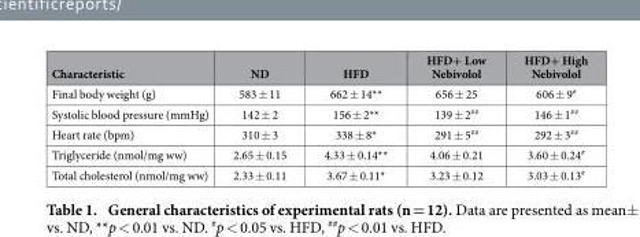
<table><thead><tr><td>Characteristic</td><td>ND</td><td>HFD</td><td>HFD+ Low Nebivolol</td><td>HFD+ High Nebivolol</td></tr></thead><tbody><tr><td>Final body weight (g)</td><td>583 ± 11</td><td>662 ± 14**</td><td>656 ± 25</td><td>606 ± 9#</td></tr><tr><td>Systolic blood pressure (mmHg)</td><td>142 ± 2</td><td>156 ± 2**</td><td>139 ± 2##</td><td>146 ± 1##</td></tr><tr><td>Heart rate (bpm)</td><td>310 ± 3</td><td>338 ± 8*</td><td>291 ± 5##</td><td>292 ± 3##</td></tr><tr><td>Triglyceride (nmol/mg ww)</td><td>2.65 ± 0.15</td><td>4.33 ± 0.14**</td><td>4.06 ± 0.21</td><td>3.60 ± 0.24#</td></tr><tr><td>Total cholesterol (nmol/mg ww)</td><td>2.33 ± 0.11</td><td>3.67 ± 0.11*</td><td>3.23 ± 0.12</td><td>3.03 ± 0.13#</td></tr></tbody></table>